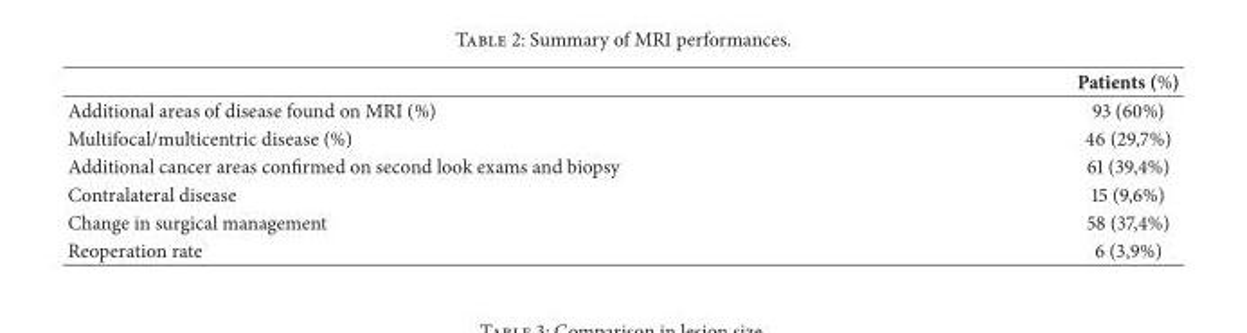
<table><thead><tr><td></td><td>Patients (%)</td></tr></thead><tbody><tr><td>Additional areas of disease found on MRI (%)</td><td>93 (60%)</td></tr><tr><td>Multifocal/multicentric disease (%)</td><td>46 (29,7%)</td></tr><tr><td>Additional cancer areas confirmed on second look exams and biopsy</td><td>61 (39,4%)</td></tr><tr><td>Contralateral disease</td><td>15 (9,6%)</td></tr><tr><td>Change in surgical management</td><td>58 (37,4%)</td></tr><tr><td>Reoperation rate</td><td>6 (3,9%)</td></tr></tbody></table>